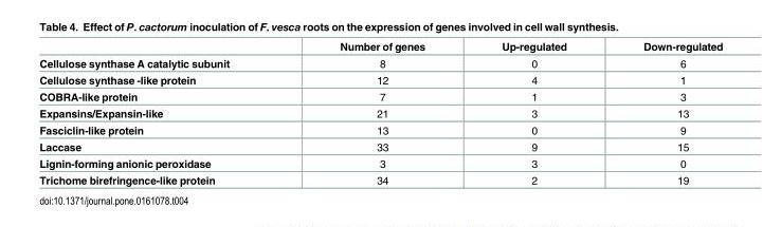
<table><thead><tr><td></td><td>Number of genes</td><td>Up-regulated</td><td>Down-regulated</td></tr></thead><tbody><tr><td>Cellulose synthase A catalytic subunit</td><td>8</td><td>0</td><td>6</td></tr><tr><td>Cellulose synthase -like protein</td><td>12</td><td>4</td><td>1</td></tr><tr><td>COBRA-like protein</td><td>7</td><td>1</td><td>3</td></tr><tr><td>Expansins/Expansin-like</td><td>21</td><td>3</td><td>13</td></tr><tr><td>Fasciclin-like protein</td><td>13</td><td>0</td><td>9</td></tr><tr><td>Laccase</td><td>33</td><td>9</td><td>15</td></tr><tr><td>Lignin-forming anionic peroxidase</td><td>3</td><td>3</td><td>0</td></tr><tr><td>Trichome birefringence-like protein</td><td>34</td><td>2</td><td>19</td></tr></tbody></table>